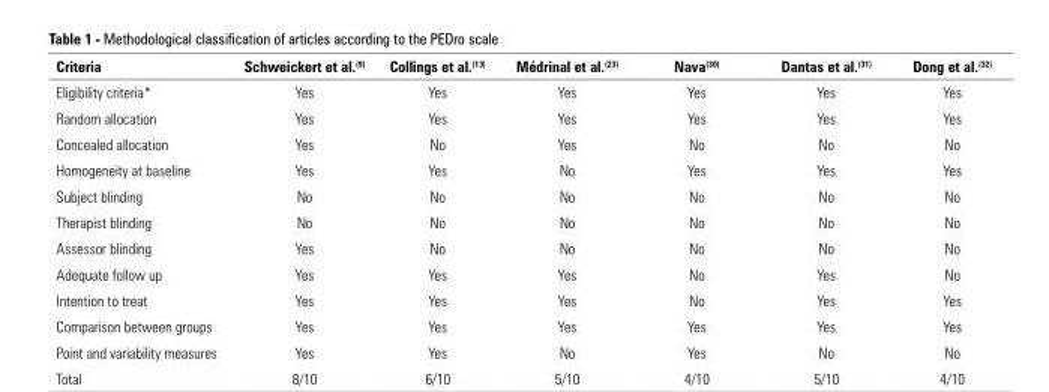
<table><thead><tr><td>Criteria</td><td>Schweickert et al.<sup>(9)</sup></td><td>Collings et al.<sup>(13)</sup></td><td>Médrinal et al.<sup>(23)</sup></td><td>Nava<sup>(30)</sup></td><td>Dantas et al.<sup>(31)</sup></td><td>Dong et al.<sup>(32)</sup></td></tr></thead><tbody><tr><td>Eligibility criteria*</td><td>Yes</td><td>Yes</td><td>Yes</td><td>Yes</td><td>Yes</td><td>Yes</td></tr><tr><td>Random allocation</td><td>Yes</td><td>Yes</td><td>Yes</td><td>Yes</td><td>Yes</td><td>Yes</td></tr><tr><td>Concealed allocation</td><td>Yes</td><td>No</td><td>Yes</td><td>No</td><td>No</td><td>No</td></tr><tr><td>Homogeneity at baseline</td><td>Yes</td><td>Yes</td><td>No</td><td>Yes</td><td>Yes</td><td>Yes</td></tr><tr><td>Subject blinding</td><td>No</td><td>No</td><td>No</td><td>No</td><td>No</td><td>No</td></tr><tr><td>Therapist blinding</td><td>No</td><td>No</td><td>No</td><td>No</td><td>No</td><td>No</td></tr><tr><td>Assessor blinding</td><td>Yes</td><td>No</td><td>No</td><td>No</td><td>No</td><td>No</td></tr><tr><td>Adequate follow up</td><td>Yes</td><td>Yes</td><td>Yes</td><td>No</td><td>Yes</td><td>No</td></tr><tr><td>Intention to treat</td><td>Yes</td><td>Yes</td><td>Yes</td><td>No</td><td>Yes</td><td>Yes</td></tr><tr><td>Comparison between groups</td><td>Yes</td><td>Yes</td><td>Yes</td><td>Yes</td><td>Yes</td><td>Yes</td></tr></tbody></table>